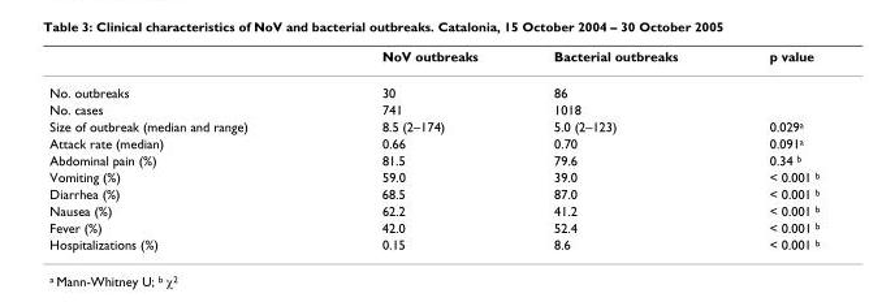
<table><thead><tr><td></td><td>NoV outbreaks</td><td>Bacterial outbreaks</td><td>p value</td></tr></thead><tbody><tr><td>No. outbreaks</td><td>30</td><td>86</td><td></td></tr><tr><td>No. cases</td><td>741</td><td>1018</td><td></td></tr><tr><td>Size of outbreak (median and range)</td><td>8.5 (2–174)</td><td>5.0 (2–123)</td><td>0.029<sup>a</sup></td></tr><tr><td>Attack rate (median)</td><td>0.66</td><td>0.70</td><td>0.091<sup>a</sup></td></tr><tr><td>Abdominal pain (%)</td><td>81.5</td><td>79.6</td><td>0.34 <sup>b</sup></td></tr><tr><td>Vomiting (%)</td><td>59.0</td><td>39.0</td><td>&lt; 0.001 <sup>b</sup></td></tr><tr><td>Diarrhea (%)</td><td>68.5</td><td>87.0</td><td>&lt; 0.001 <sup>b</sup></td></tr><tr><td>Nausea (%)</td><td>62.2</td><td>41.2</td><td>&lt; 0.001 <sup>b</sup></td></tr><tr><td>Fever (%)</td><td>42.0</td><td>52.4</td><td>&lt; 0.001 <sup>b</sup></td></tr><tr><td>Hospitalizations (%)</td><td>0.15</td><td>8.6</td><td>&lt; 0.001 <sup>b</sup></td></tr></tbody></table>